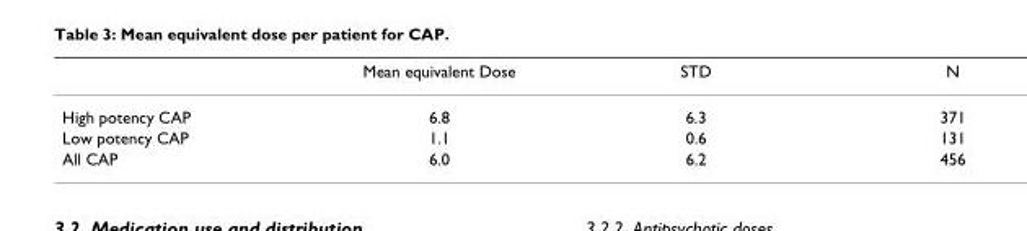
<table><thead><tr><td></td><td>Mean equivalent Dose</td><td>STD</td><td>N</td></tr></thead><tbody><tr><td>High potency CAP</td><td>6.8</td><td>6.3</td><td>371</td></tr><tr><td>Low potency CAP</td><td>1.1</td><td>0.6</td><td>131</td></tr><tr><td>All CAP</td><td>6.0</td><td>6.2</td><td>456</td></tr></tbody></table>